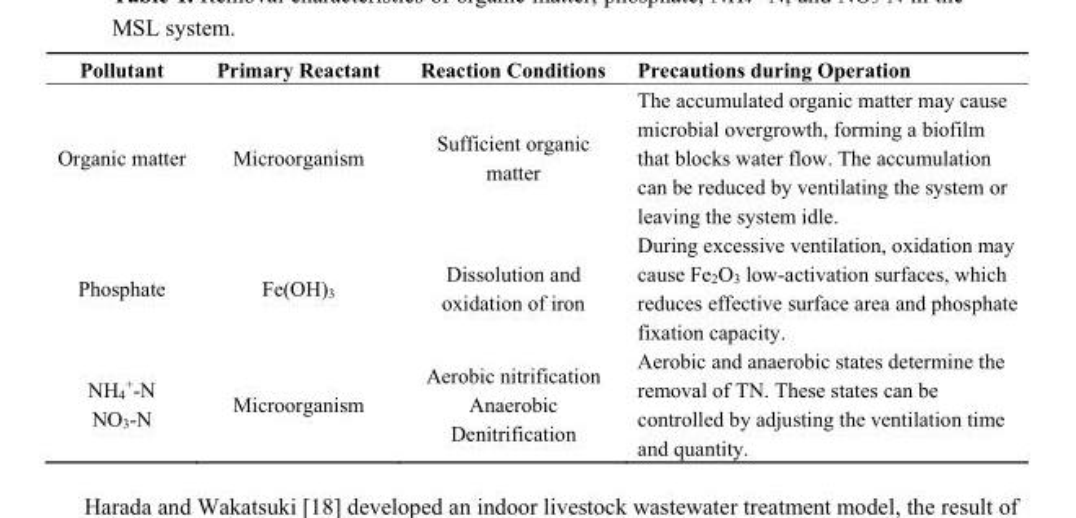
<table><thead><tr><td>Pollutant</td><td>Primary Reactant</td><td>Reaction Conditions</td><td>Precautions during Operation</td></tr></thead><tbody><tr><td>Organic matter</td><td>Microorganism</td><td>Sufficient organic matter</td><td>The accumulated organic matter may cause microbial overgrowth, forming a biofilm that blocks water flow. The accumulation can be reduced by ventilating the system or leaving the system idle.</td></tr><tr><td>Phosphate</td><td>Fe(OH)<sub>3</sub></td><td>Dissolution and oxidation of iron</td><td>During excessive ventilation, oxidation may cause Fe<sub>2</sub>O<sub>3</sub> low-activation surfaces, which reduces effective surface area and phosphate fixation capacity.</td></tr><tr><td>NH<sub>4</sub><sup>+</sup>-N NO<sub>3</sub>-N</td><td>Microorganism</td><td>Aerobic nitrification Anaerobic Denitrification</td><td>Aerobic and anaerobic states determine the removal of TN. These states can be controlled by adjusting the ventilation time and quantity.</td></tr></tbody></table>